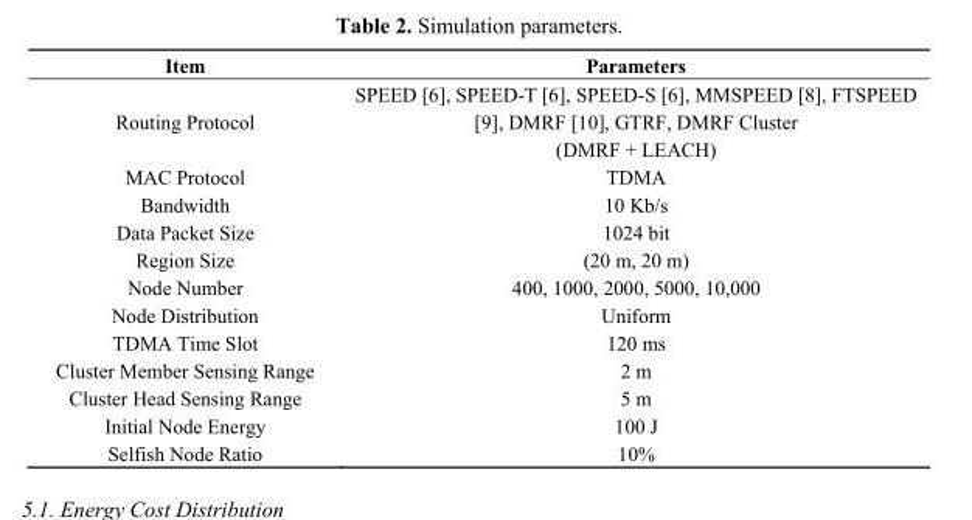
<table><thead><tr><td>Item</td><td>Parameters</td></tr></thead><tbody><tr><td>Routing Protocol</td><td>SPEED [6], SPEED-T [6], SPEED-S [6], MMSPEED [8], FTSPEED [9], DMRF [10], GTRF, DMRF Cluster (DMRF + LEACH)</td></tr><tr><td>MAC Protocol</td><td>TDMA</td></tr><tr><td>Bandwidth</td><td>10 Kb/s</td></tr><tr><td>Data Packet Size</td><td>1024 bit</td></tr><tr><td>Region Size</td><td>(20 m, 20 m)</td></tr><tr><td>Node Number</td><td>400, 1000, 2000, 5000, 10,000</td></tr><tr><td>Node Distribution</td><td>Uniform</td></tr><tr><td>TDMA Time Slot</td><td>120 ms</td></tr><tr><td>Cluster Member Sensing Range</td><td>2 m</td></tr><tr><td>Cluster Head Sensing Range</td><td>5 m</td></tr><tr><td>Initial Node Energy</td><td>100 J</td></tr><tr><td>Selfish Node Ratio</td><td>10%</td></tr></tbody></table>